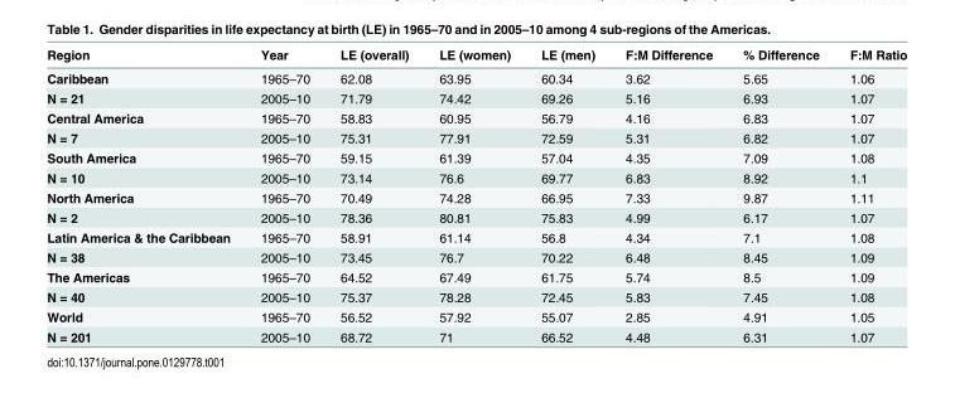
<table><thead><tr><td>Region</td><td>Year</td><td>LE (overall)</td><td>LE (women)</td><td>LE (men)</td><td>F:M Difference</td><td>% Difference</td><td>F:M Ratio</td></tr></thead><tbody><tr><td>Caribbean</td><td>1965–70</td><td>62.08</td><td>63.95</td><td>60.34</td><td>3.62</td><td>5.65</td><td>1.06</td></tr><tr><td>N = 21</td><td>2005–10</td><td>71.79</td><td>74.42</td><td>69.26</td><td>5.16</td><td>6.93</td><td>1.07</td></tr><tr><td>Central America</td><td>1965–70</td><td>58.83</td><td>60.95</td><td>56.79</td><td>4.16</td><td>6.83</td><td>1.07</td></tr><tr><td>N = 7</td><td>2005–10</td><td>75.31</td><td>77.91</td><td>72.59</td><td>5.31</td><td>6.82</td><td>1.07</td></tr><tr><td>South America</td><td>1965–70</td><td>59.15</td><td>61.39</td><td>57.04</td><td>4.35</td><td>7.09</td><td>1.08</td></tr><tr><td>N = 10</td><td>2005–10</td><td>73.14</td><td>76.6</td><td>69.77</td><td>6.83</td><td>8.92</td><td>1.1</td></tr><tr><td>North America</td><td>1965–70</td><td>70.49</td><td>74.28</td><td>66.95</td><td>7.33</td><td>9.87</td><td>1.11</td></tr><tr><td>N = 2</td><td>2005–10</td><td>78.36</td><td>80.81</td><td>75.83</td><td>4.99</td><td>6.17</td><td>1.07</td></tr><tr><td>Latin America &amp; the Caribbean</td><td>1965–70</td><td>58.91</td><td>61.14</td><td>56.8</td><td>4.34</td><td>7.1</td><td>1.08</td></tr><tr><td>N = 38</td><td>2005–10</td><td>73.45</td><td>76.7</td><td>70.22</td><td>6.48</td><td>8.45</td><td>1.09</td></tr><tr><td>The Americas</td><td>1965–70</td><td>64.52</td><td>67.49</td><td>61.75</td><td>5.74</td><td>8.5</td><td>1.09</td></tr><tr><td>N = 40</td><td>2005–10</td><td>75.37</td><td>78.28</td><td>72.45</td><td>5.83</td><td>7.45</td><td>1.08</td></tr><tr><td>World</td><td>1965–70</td><td>56.52</td><td>57.92</td><td>55.07</td><td>2.85</td><td>4.91</td><td>1.05</td></tr><tr><td>N = 201</td><td>2005–10</td><td>68.72</td><td>71</td><td>66.52</td><td>4.48</td><td>6.31</td><td>1.07</td></tr></tbody></table>